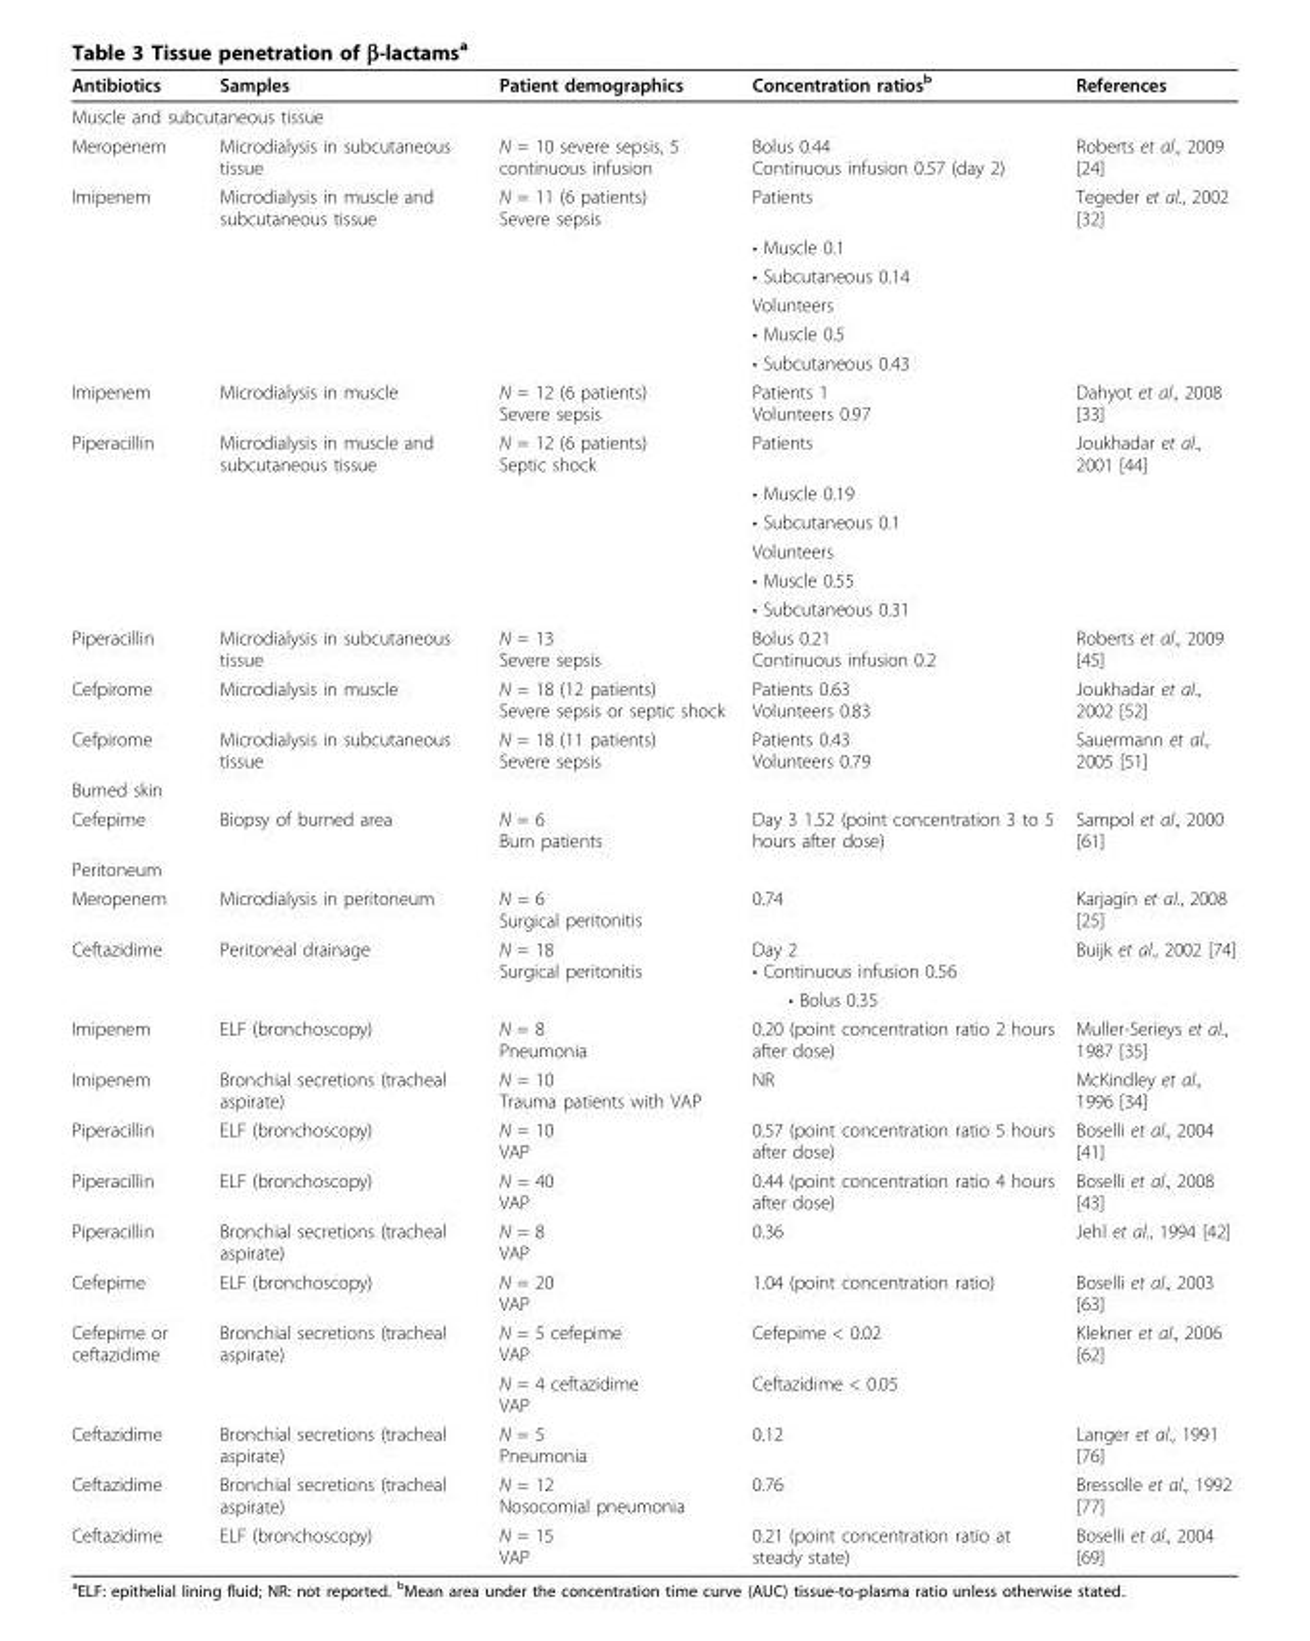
<table><thead><tr><td>Antibiotics</td><td>Samples</td><td>Patient demographics</td><td>Concentration ratios<sup>b</sup></td><td>References</td></tr></thead><tbody><tr><td colspan="5">Muscle and subcutaneous tissue</td></tr><tr><td>Meropenem</td><td>Microdialysis in subcutaneous tissue</td><td>N = 10 severe sepsis, 5 continuous infusion</td><td>Bolus 0.44 Continuous infusion 0.57 (day 2)</td><td>Roberts et al., 2009 [24]</td></tr><tr><td rowspan="6">Imipenem</td><td>Microdialysis in muscle and subcutaneous tissue</td><td>N = 11 (6 patients) Severe sepsis</td><td>Patients</td><td>Tegeder et al., 2002 [32]</td></tr><tr><td></td><td></td><td>• Muscle 0.1</td><td></td></tr><tr><td></td><td></td><td>• Subcutaneous 0.14</td><td></td></tr><tr><td></td><td></td><td>Volunteers</td><td></td></tr><tr><td></td><td></td><td>• Muscle 0.5</td><td></td></tr><tr><td></td><td></td><td>• Subcutaneous 0.43</td><td></td></tr><tr><td>Imipenem</td><td>Microdialysis in muscle</td><td>N = 12 (6 patients) Severe sepsis</td><td>Patients 1 Volunteers 0.97</td><td>Dahyot et al., 2008 [33]</td></tr><tr><td rowspan="6">Piperacillin</td><td>Microdialysis in muscle and subcutaneous tissue</td><td>N = 12 (6 patients) Septic shock</td><td>Patients</td><td>Joukhadar et al., 2001 [44]</td></tr><tr><td></td><td></td><td>• Muscle 0.19</td><td></td></tr><tr><td></td><td></td><td>• Subcutaneous 0.1</td><td></td></tr><tr><td></td><td></td><td>Volunteers</td><td></td></tr><tr><td></td><td></td><td>• Muscle 0.55</td><td></td></tr><tr><td></td><td></td><td>• Subcutaneous 0.31</td><td></td></tr><tr><td>Piperacillin</td><td>Microdialysis in subcutaneous tissue</td><td>N = 13 Severe sepsis</td><td>Bolus 0.21 Continuous infusion 0.2</td><td>Roberts et al., 2009 [45]</td></tr><tr><td>Cefpirome</td><td>Microdialysis in muscle</td><td>N = 18 (12 patients) Severe sepsis or septic shock</td><td>Patients 0.63 Volunteers 0.83</td><td>Joukhadar et al., 2002 [52]</td></tr><tr><td>Cefpirome</td><td>Microdialysis in subcutaneous tissue</td><td>N = 18 (11 patients) Severe sepsis</td><td>Patients 0.43 Volunteers 0.79</td><td>Sauermann et al., 2005 [51]</td></tr><tr><td colspan="5">Burned skin</td></tr><tr><td>Cefepime</td><td>Biopsy of burned area</td><td>N = 6 Burn patients</td><td>Day 3 1.52 (point concentration 3 to 5 hours after dose)</td><td>Sampol et al., 2000 [61]</td></tr><tr><td colspan="5">Peritoneum</td></tr><tr><td>Meropenem</td><td>Microdialysis in peritoneum</td><td>N = 6 Surgical peritonitis</td><td>0.74</td><td>Karjagin et al., 2008 [25]</td></tr><tr><td rowspan="2">Ceftazidime</td><td>Peritoneal drainage</td><td>N = 18 Surgical peritonitis</td><td>Day 2 • Continuous infusion 0.56</td><td>Buijk et al., 2002 [74]</td></tr><tr><td></td><td></td><td>• Bolus 0.35</td><td></td></tr><tr><td>Imipenem</td><td>ELF (bronchoscopy)</td><td>N = 8 Pneumonia</td><td>0.20 (point concentration ratio 2 hours after dose)</td><td>Muller-Serieys et al., 1987 [35]</td></tr><tr><td>Imipenem</td><td>Bronchial secretions (tracheal aspirate)</td><td>N = 10 Trauma patients with VAP</td><td>NR</td><td>McKindley et al., 1996 [34]</td></tr><tr><td>Piperacillin</td><td>ELF (bronchoscopy)</td><td>N = 10 VAP</td><td>0.57 (point concentration ratio 5 hours after dose)</td><td>Boselli et al., 2004 [41]</td></tr><tr><td>Piperacillin</td><td>ELF (bronchoscopy)</td><td>N = 40 VAP</td><td>0.44 (point concentration ratio 4 hours after dose)</td><td>Boselli et al., 2008 [43]</td></tr><tr><td>Piperacillin</td><td>Bronchial secretions (tracheal aspirate)</td><td>N = 8 VAP</td><td>0.36</td><td>Jehl et al., 1994 [42]</td></tr><tr><td>Cefepime</td><td>ELF (bronchoscopy)</td><td>N = 20 VAP</td><td>1.04 (point concentration ratio)</td><td>Boselli et al., 2003 [63]</td></tr><tr><td rowspan="2">Cefepime or ceftazidime</td><td>Bronchial secretions (tracheal aspirate)</td><td>N = 5 cefepime VAP</td><td>Cefepime &lt; 0.02</td><td>Klekner et al., 2006 [62]</td></tr><tr><td></td><td>N = 4 ceftazidime VAP</td><td>Ceftazidime &lt; 0.05</td><td></td></tr><tr><td>Ceftazidime</td><td>Bronchial secretions (tracheal aspirate)</td><td>N = 5 Pneumonia</td><td>0.12</td><td>Langer et al., 1991 [76]</td></tr><tr><td>Ceftazidime</td><td>Bronchial secretions (tracheal aspirate)</td><td>N = 12 Nosocomial pneumonia</td><td>0.76</td><td>Bressolle et al., 1992 [77]</td></tr><tr><td>Ceftazidime</td><td>ELF (bronchoscopy)</td><td>N = 15 VAP</td><td>0.21 (point concentration ratio at steady state)</td><td>Boselli et al., 2004 [69]</td></tr></tbody></table>